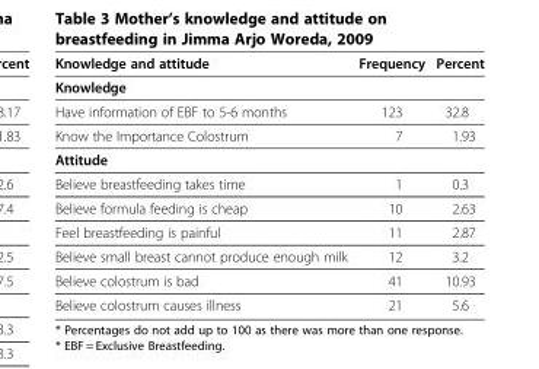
<table><thead><tr><td>Knowledge and attitude</td><td>Frequency</td><td>Percent</td></tr></thead><tbody><tr><td colspan="3">Knowledge</td></tr><tr><td>Have information of EBF to 5-6 months</td><td>123</td><td>32.8</td></tr><tr><td>Know the Importance Colostrum</td><td>7</td><td>1.93</td></tr><tr><td colspan="3">Attitude</td></tr><tr><td>Believe breastfeeding takes time</td><td>1</td><td>0.3</td></tr><tr><td>Believe formula feeding is cheap</td><td>10</td><td>2.63</td></tr><tr><td>Feel breastfeeding is painful</td><td>11</td><td>2.87</td></tr><tr><td>Believe small breast cannot produce enough milk</td><td>12</td><td>3.2</td></tr><tr><td>Believe colostrum is bad</td><td>41</td><td>10.93</td></tr><tr><td>Believe colostrum causes illness</td><td>21</td><td>5.6</td></tr></tbody></table>